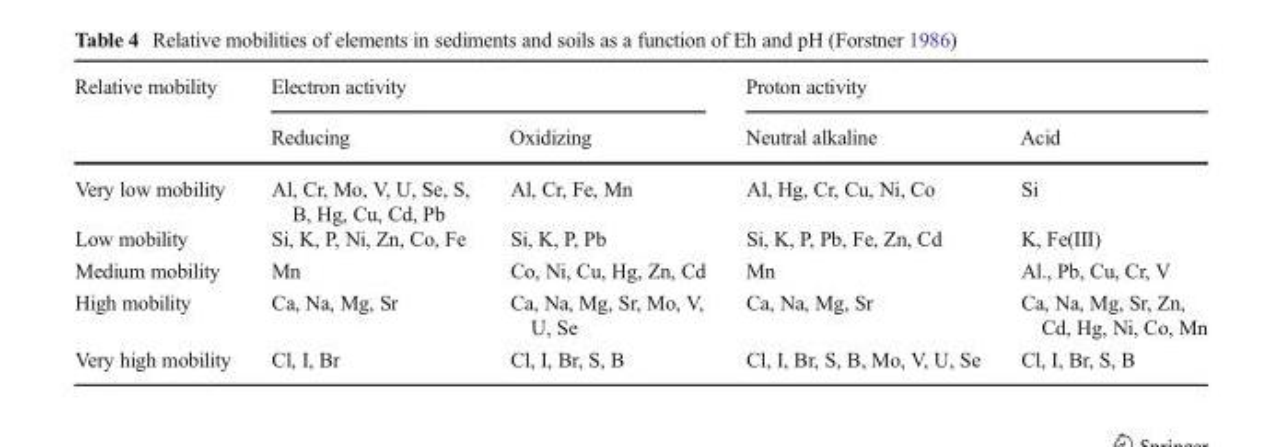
<table><thead><tr><td rowspan="2">Relative mobility</td><td colspan="2">Electron activity</td><td colspan="2">Proton activity</td></tr><tr><td>Reducing</td><td>Oxidizing</td><td>Neutral alkaline</td><td>Acid</td></tr></thead><tbody><tr><td>Very low mobility</td><td>Al, Cr, Mo, V, U, Se, S, B, Hg, Cu, Cd, Pb</td><td>Al, Cr, Fe, Mn</td><td>Al, Hg, Cr, Cu, Ni, Co</td><td>Si</td></tr><tr><td>Low mobility</td><td>Si, K, P, Ni, Zn, Co, Fe</td><td>Si, K, P, Pb</td><td>Si, K, P, Pb, Fe, Zn, Cd</td><td>K, Fe(III)</td></tr><tr><td>Medium mobility</td><td>Mn</td><td>Co, Ni, Cu, Hg, Zn, Cd</td><td>Mn</td><td>Al., Pb, Cu, Cr, V</td></tr><tr><td>High mobility</td><td>Ca, Na, Mg, Sr</td><td>Ca, Na, Mg, Sr, Mo, V, U, Se</td><td>Ca, Na, Mg, Sr</td><td>Ca, Na, Mg, Sr, Zn, Cd, Hg, Ni, Co, Mn</td></tr><tr><td>Very high mobility</td><td>Cl, I, Br</td><td>Cl, I, Br, S, B</td><td>Cl, I, Br, S, B, Mo, V, U, Se</td><td>Cl, I, Br, S, B</td></tr></tbody></table>